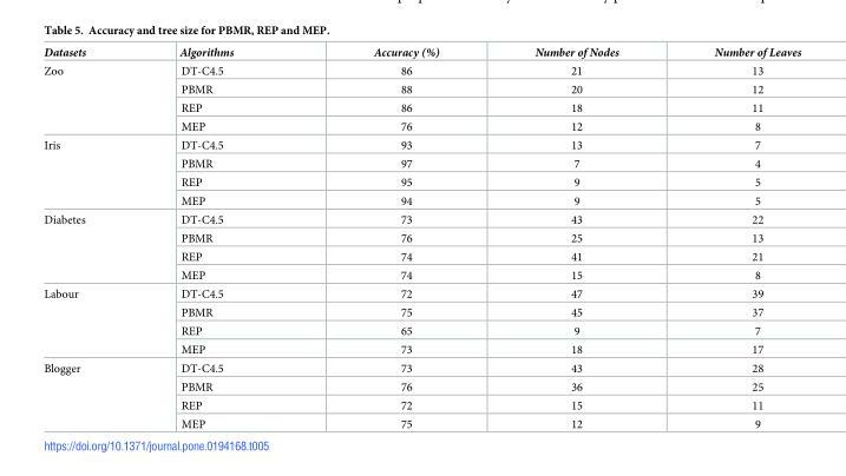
<table><thead><tr><td>Datasets</td><td>Algorithms</td><td>Accuracy (%)</td><td>Number of Nodes</td><td>Number of Leaves</td></tr></thead><tbody><tr><td rowspan="4">Zoo</td><td>DT-C4.5</td><td>86</td><td>21</td><td>13</td></tr><tr><td>PBMR</td><td>88</td><td>20</td><td>12</td></tr><tr><td>REP</td><td>86</td><td>18</td><td>11</td></tr><tr><td>MEP</td><td>76</td><td>12</td><td>8</td></tr><tr><td rowspan="4">Iris</td><td>DT-C4.5</td><td>93</td><td>13</td><td>7</td></tr><tr><td>PBMR</td><td>97</td><td>7</td><td>4</td></tr><tr><td>REP</td><td>95</td><td>9</td><td>5</td></tr><tr><td>MEP</td><td>94</td><td>9</td><td>5</td></tr><tr><td rowspan="4">Diabetes</td><td>DT-C4.5</td><td>73</td><td>43</td><td>22</td></tr><tr><td>PBMR</td><td>76</td><td>25</td><td>13</td></tr><tr><td>REP</td><td>74</td><td>41</td><td>21</td></tr><tr><td>MEP</td><td>74</td><td>15</td><td>8</td></tr><tr><td rowspan="4">Labour</td><td>DT-C4.5</td><td>72</td><td>47</td><td>39</td></tr><tr><td>PBMR</td><td>75</td><td>45</td><td>37</td></tr><tr><td>REP</td><td>65</td><td>9</td><td>7</td></tr><tr><td>MEP</td><td>73</td><td>18</td><td>17</td></tr><tr><td rowspan="4">Blogger</td><td>DT-C4.5</td><td>73</td><td>43</td><td>28</td></tr><tr><td>PBMR</td><td>76</td><td>36</td><td>25</td></tr><tr><td>REP</td><td>72</td><td>15</td><td>11</td></tr><tr><td>MEP</td><td>75</td><td>12</td><td>9</td></tr></tbody></table>